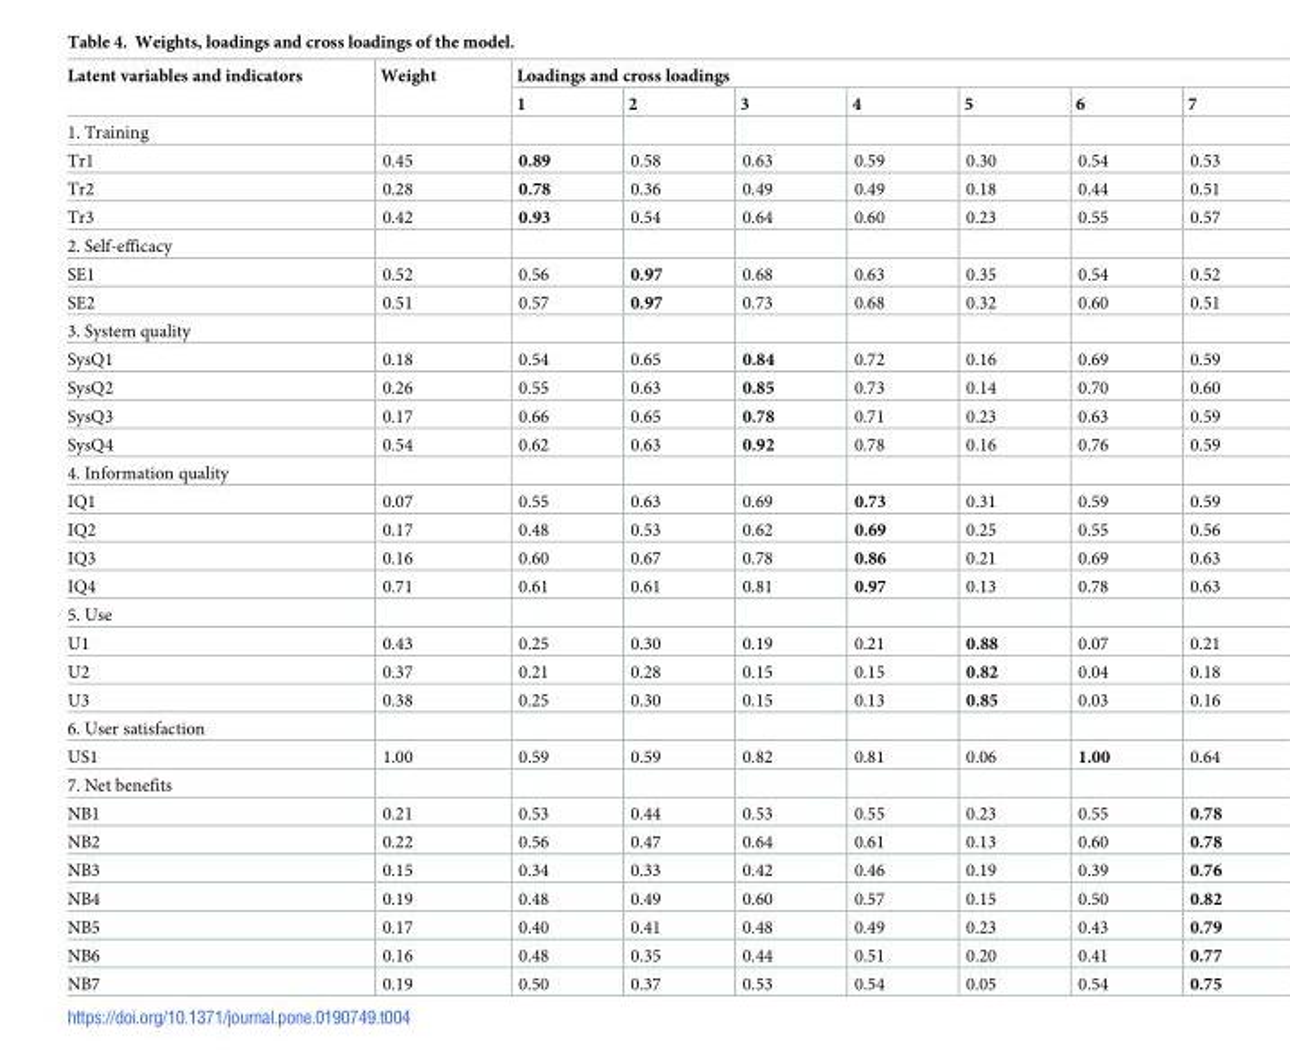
<table><thead><tr><td rowspan="2">Latent variables and indicators</td><td rowspan="2">Weight</td><td colspan="7">Loadings and cross loadings</td></tr><tr><td>1</td><td>2</td><td>3</td><td>4</td><td>5</td><td>6</td><td>7</td></tr></thead><tbody><tr><td colspan="9">1. Training</td></tr><tr><td>Tr1</td><td>0.45</td><td>0.89</td><td>0.58</td><td>0.63</td><td>0.59</td><td>0.30</td><td>0.54</td><td>0.53</td></tr><tr><td>Tr2</td><td>0.28</td><td>0.78</td><td>0.36</td><td>0.49</td><td>0.49</td><td>0.18</td><td>0.44</td><td>0.51</td></tr><tr><td>Tr3</td><td>0.42</td><td>0.93</td><td>0.54</td><td>0.64</td><td>0.60</td><td>0.23</td><td>0.55</td><td>0.57</td></tr><tr><td colspan="9">2. Self-efficacy</td></tr><tr><td>SE1</td><td>0.52</td><td>0.56</td><td>0.97</td><td>0.68</td><td>0.63</td><td>0.35</td><td>0.54</td><td>0.52</td></tr><tr><td>SE2</td><td>0.51</td><td>0.57</td><td>0.97</td><td>0.73</td><td>0.68</td><td>0.32</td><td>0.60</td><td>0.51</td></tr><tr><td colspan="9">3. System quality</td></tr><tr><td>SysQ1</td><td>0.18</td><td>0.54</td><td>0.65</td><td>0.84</td><td>0.72</td><td>0.16</td><td>0.69</td><td>0.59</td></tr><tr><td>SysQ2</td><td>0.26</td><td>0.55</td><td>0.63</td><td>0.85</td><td>0.73</td><td>0.14</td><td>0.70</td><td>0.60</td></tr><tr><td>SysQ3</td><td>0.17</td><td>0.66</td><td>0.65</td><td>0.78</td><td>0.71</td><td>0.23</td><td>0.63</td><td>0.59</td></tr><tr><td>SysQ4</td><td>0.54</td><td>0.62</td><td>0.63</td><td>0.92</td><td>0.78</td><td>0.16</td><td>0.76</td><td>0.59</td></tr><tr><td colspan="9">4. Information quality</td></tr><tr><td>IQ1</td><td>0.07</td><td>0.55</td><td>0.63</td><td>0.69</td><td>0.73</td><td>0.31</td><td>0.59</td><td>0.59</td></tr><tr><td>IQ2</td><td>0.17</td><td>0.48</td><td>0.53</td><td>0.62</td><td>0.69</td><td>0.25</td><td>0.55</td><td>0.56</td></tr><tr><td>IQ3</td><td>0.16</td><td>0.60</td><td>0.67</td><td>0.78</td><td>0.86</td><td>0.21</td><td>0.69</td><td>0.63</td></tr><tr><td>IQ4</td><td>0.71</td><td>0.61</td><td>0.61</td><td>0.81</td><td>0.97</td><td>0.13</td><td>0.78</td><td>0.63</td></tr><tr><td colspan="9">5. Use</td></tr><tr><td>U1</td><td>0.43</td><td>0.25</td><td>0.30</td><td>0.19</td><td>0.21</td><td>0.88</td><td>0.07</td><td>0.21</td></tr><tr><td>U2</td><td>0.37</td><td>0.21</td><td>0.28</td><td>0.15</td><td>0.15</td><td>0.82</td><td>0.04</td><td>0.18</td></tr><tr><td>U3</td><td>0.38</td><td>0.25</td><td>0.30</td><td>0.15</td><td>0.13</td><td>0.85</td><td>0.03</td><td>0.16</td></tr><tr><td colspan="9">6. User satisfaction</td></tr><tr><td>US1</td><td>1.00</td><td>0.59</td><td>0.59</td><td>0.82</td><td>0.81</td><td>0.06</td><td>1.00</td><td>0.64</td></tr><tr><td colspan="9">7. Net benefits</td></tr><tr><td>NB1</td><td>0.21</td><td>0.53</td><td>0.44</td><td>0.53</td><td>0.55</td><td>0.23</td><td>0.55</td><td>0.78</td></tr><tr><td>NB2</td><td>0.22</td><td>0.56</td><td>0.47</td><td>0.64</td><td>0.61</td><td>0.13</td><td>0.60</td><td>0.78</td></tr><tr><td>NB3</td><td>0.15</td><td>0.34</td><td>0.33</td><td>0.42</td><td>0.46</td><td>0.19</td><td>0.39</td><td>0.76</td></tr><tr><td>NB4</td><td>0.19</td><td>0.48</td><td>0.49</td><td>0.60</td><td>0.57</td><td>0.15</td><td>0.50</td><td>0.82</td></tr><tr><td>NB5</td><td>0.17</td><td>0.40</td><td>0.41</td><td>0.48</td><td>0.49</td><td>0.23</td><td>0.43</td><td>0.79</td></tr><tr><td>NB6</td><td>0.16</td><td>0.48</td><td>0.35</td><td>0.44</td><td>0.51</td><td>0.20</td><td>0.41</td><td>0.77</td></tr><tr><td>NB7</td><td>0.19</td><td>0.50</td><td>0.37</td><td>0.53</td><td>0.54</td><td>0.05</td><td>0.54</td><td>0.75</td></tr></tbody></table>